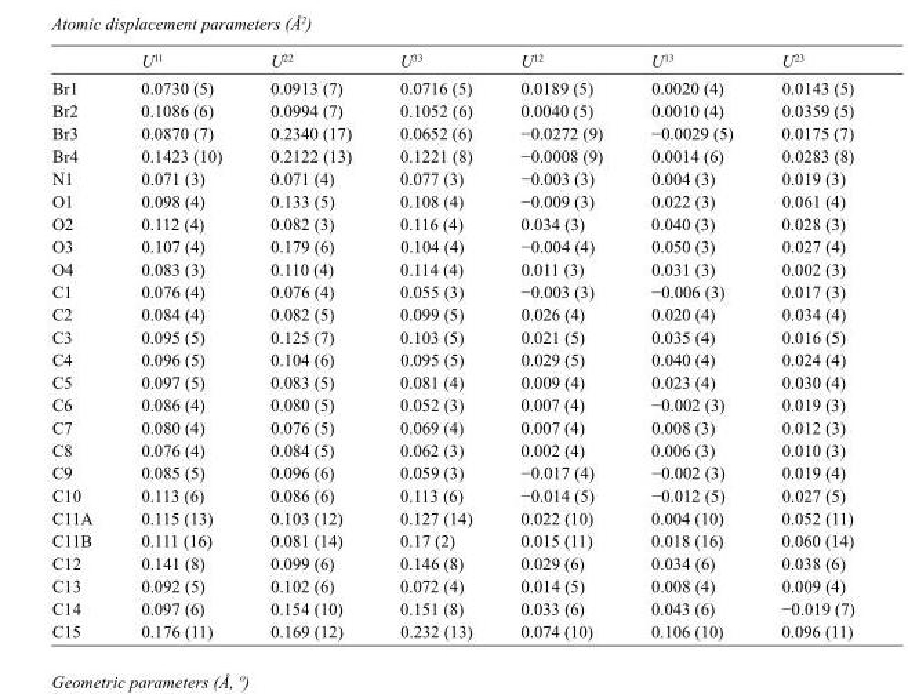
<table><thead><tr><td></td><td>U<sup>11</sup></td><td>U<sup>22</sup></td><td>U<sup>33</sup></td><td>U<sup>12</sup></td><td>U<sup>13</sup></td><td>U<sup>23</sup></td></tr></thead><tbody><tr><td>Br1</td><td>0.0730 (5)</td><td>0.0913 (7)</td><td>0.0716 (5)</td><td>0.0189 (5)</td><td>0.0020 (4)</td><td>0.0143 (5)</td></tr><tr><td>Br2</td><td>0.1086 (6)</td><td>0.0994 (7)</td><td>0.1052 (6)</td><td>0.0040 (5)</td><td>0.0010 (4)</td><td>0.0359 (5)</td></tr><tr><td>Br3</td><td>0.0870 (7)</td><td>0.2340 (17)</td><td>0.0652 (6)</td><td>−0.0272 (9)</td><td>−0.0029 (5)</td><td>0.0175 (7)</td></tr><tr><td>Br4</td><td>0.1423 (10)</td><td>0.2122 (13)</td><td>0.1221 (8)</td><td>−0.0008 (9)</td><td>0.0014 (6)</td><td>0.0283 (8)</td></tr><tr><td>N1</td><td>0.071 (3)</td><td>0.071 (4)</td><td>0.077 (3)</td><td>−0.003 (3)</td><td>0.004 (3)</td><td>0.019 (3)</td></tr><tr><td>O1</td><td>0.098 (4)</td><td>0.133 (5)</td><td>0.108 (4)</td><td>−0.009 (3)</td><td>0.022 (3)</td><td>0.061 (4)</td></tr><tr><td>O2</td><td>0.112 (4)</td><td>0.082 (3)</td><td>0.116 (4)</td><td>0.034 (3)</td><td>0.040 (3)</td><td>0.028 (3)</td></tr><tr><td>O3</td><td>0.107 (4)</td><td>0.179 (6)</td><td>0.104 (4)</td><td>−0.004 (4)</td><td>0.050 (3)</td><td>0.027 (4)</td></tr><tr><td>O4</td><td>0.083 (3)</td><td>0.110 (4)</td><td>0.114 (4)</td><td>0.011 (3)</td><td>0.031 (3)</td><td>0.002 (3)</td></tr><tr><td>C1</td><td>0.076 (4)</td><td>0.076 (4)</td><td>0.055 (3)</td><td>−0.003 (3)</td><td>−0.006 (3)</td><td>0.017 (3)</td></tr><tr><td>C2</td><td>0.084 (4)</td><td>0.082 (5)</td><td>0.099 (5)</td><td>0.026 (4)</td><td>0.020 (4)</td><td>0.034 (4)</td></tr><tr><td>C3</td><td>0.095 (5)</td><td>0.125 (7)</td><td>0.103 (5)</td><td>0.021 (5)</td><td>0.035 (4)</td><td>0.016 (5)</td></tr><tr><td>C4</td><td>0.096 (5)</td><td>0.104 (6)</td><td>0.095 (5)</td><td>0.029 (5)</td><td>0.040 (4)</td><td>0.024 (4)</td></tr><tr><td>C5</td><td>0.097 (5)</td><td>0.083 (5)</td><td>0.081 (4)</td><td>0.009 (4)</td><td>0.023 (4)</td><td>0.030 (4)</td></tr><tr><td>C6</td><td>0.086 (4)</td><td>0.080 (5)</td><td>0.052 (3)</td><td>0.007 (4)</td><td>−0.002 (3)</td><td>0.019 (3)</td></tr><tr><td>C7</td><td>0.080 (4)</td><td>0.076 (5)</td><td>0.069 (4)</td><td>0.007 (4)</td><td>0.008 (3)</td><td>0.012 (3)</td></tr><tr><td>C8</td><td>0.076 (4)</td><td>0.084 (5)</td><td>0.062 (3)</td><td>0.002 (4)</td><td>0.006 (3)</td><td>0.010 (3)</td></tr><tr><td>C9</td><td>0.085 (5)</td><td>0.096 (6)</td><td>0.059 (3)</td><td>−0.017 (4)</td><td>−0.002 (3)</td><td>0.019 (4)</td></tr><tr><td>C10</td><td>0.113 (6)</td><td>0.086 (6)</td><td>0.113 (6)</td><td>−0.014 (5)</td><td>−0.012 (5)</td><td>0.027 (5)</td></tr><tr><td>C11A</td><td>0.115 (13)</td><td>0.103 (12)</td><td>0.127 (14)</td><td>0.022 (10)</td><td>0.004 (10)</td><td>0.052 (11)</td></tr><tr><td>C11B</td><td>0.111 (16)</td><td>0.081 (14)</td><td>0.17 (2)</td><td>0.015 (11)</td><td>0.018 (16)</td><td>0.060 (14)</td></tr><tr><td>C12</td><td>0.141 (8)</td><td>0.099 (6)</td><td>0.146 (8)</td><td>0.029 (6)</td><td>0.034 (6)</td><td>0.038 (6)</td></tr><tr><td>C13</td><td>0.092 (5)</td><td>0.102 (6)</td><td>0.072 (4)</td><td>0.014 (5)</td><td>0.008 (4)</td><td>0.009 (4)</td></tr><tr><td>C14</td><td>0.097 (6)</td><td>0.154 (10)</td><td>0.151 (8)</td><td>0.033 (6)</td><td>0.043 (6)</td><td>−0.019 (7)</td></tr><tr><td>C15</td><td>0.176 (11)</td><td>0.169 (12)</td><td>0.232 (13)</td><td>0.074 (10)</td><td>0.106 (10)</td><td>0.096 (11)</td></tr></tbody></table>